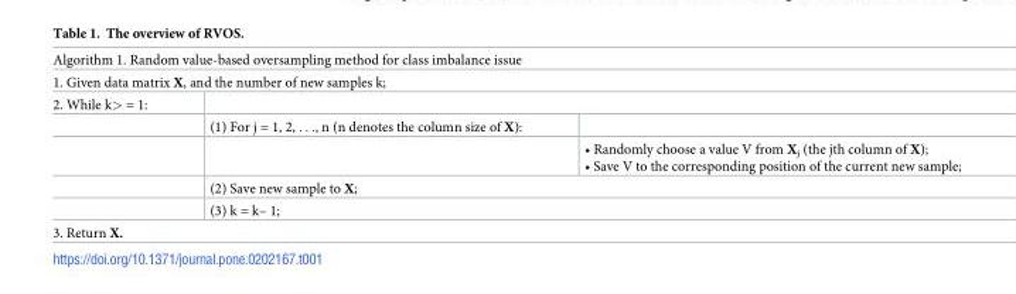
<table><tbody><tr><td colspan="3">Algorithm 1. Random value-based oversampling method for class imbalance issue</td></tr><tr><td colspan="3">1. Given data matrix X, and the number of new samples k;</td></tr><tr><td colspan="3">2. While k&gt; = 1:</td></tr><tr><td></td><td>(1) For j = 1, 2, . . ., n (n denotes the column size of X):</td><td></td></tr><tr><td></td><td></td><td>• Randomly choose a value V from X<sub>j</sub> (the jth column of X); • Save V to the corresponding position of the current new sample;</td></tr><tr><td></td><td colspan="2">(2) Save new sample to X;</td></tr><tr><td></td><td colspan="2">(3) k = k– 1;</td></tr><tr><td colspan="3">3. Return X.</td></tr></tbody></table>